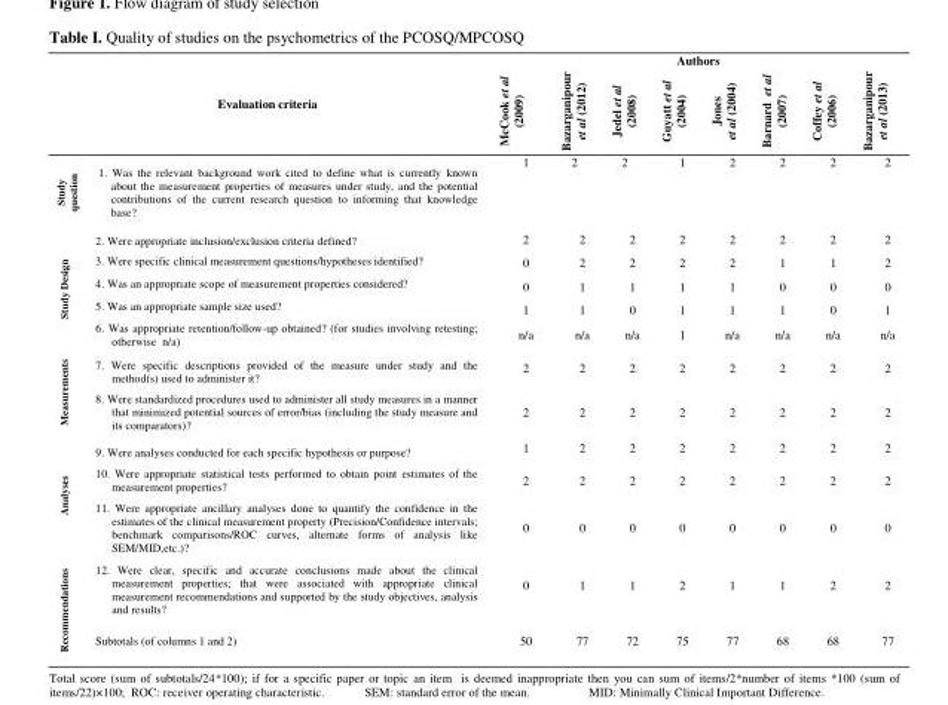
<table><thead><tr><td rowspan="2" colspan="2">Evaluation criteria</td><td colspan="8">Authors</td></tr><tr><td rowspan="2">McCook et al (2009) 1</td><td rowspan="2">Bazarganipour et al (2012) 2</td><td rowspan="2">Jedel et al (2008) 2</td><td rowspan="2">Guyatt et al (2004) 1</td><td rowspan="2">Jones et al (2004) 2</td><td rowspan="2">Barnard et al (2007) 2</td><td rowspan="2">Coffey et al (2006) 2</td><td rowspan="2">Bazarganipour et al (2013) 2</td></tr><tr><td>Study question</td><td>1. Was the relevant background work cited to define what is currently known about the measurement properties of measures under study, and the potential contributions of the current research question to informing that knowledge base?</td></tr></thead><tbody><tr><td rowspan="5">Study Design</td><td>2. Were appropriate inclusion/exclusion criteria defined?</td><td>2</td><td>2</td><td>2</td><td>2</td><td>2</td><td>2</td><td>2</td><td>2</td></tr><tr><td>3. Were specific clinical measurement questions/hypotheses identified?</td><td>0</td><td>2</td><td>2</td><td>2</td><td>2</td><td>1</td><td>1</td><td>2</td></tr><tr><td>4. Was an appropriate scope of measurement properties considered?</td><td>0</td><td>1</td><td>1</td><td>1</td><td>1</td><td>0</td><td>0</td><td>0</td></tr><tr><td>5. Was an appropriate sample size used?</td><td>1</td><td>1</td><td>0</td><td>1</td><td>1</td><td>1</td><td>0</td><td>1</td></tr><tr><td>6. Was appropriate retention/follow-up obtained? (for studies involving retesting; otherwise n/a)</td><td>n/a</td><td>n/a</td><td>n/a</td><td>1</td><td>n/a</td><td>n/a</td><td>n/a</td><td>n/a</td></tr><tr><td rowspan="2">Measurements</td><td>7. Were specific descriptions provided of the measure under study and the method(s) used to administer it?</td><td>2</td><td>2</td><td>2</td><td>2</td><td>2</td><td>2</td><td>2</td><td>2</td></tr><tr><td>8. Were standardized procedures used to administer all study measures in a manner that minimized potential sources of error/bias (including the study measure and its comparators)?</td><td>2</td><td>2</td><td>2</td><td>2</td><td>2</td><td>2</td><td>2</td><td>2</td></tr><tr><td rowspan="3">Analyses</td><td>9. Were analyses conducted for each specific hypothesis or purpose?</td><td>1</td><td>2</td><td>2</td><td>2</td><td>2</td><td>2</td><td>2</td><td>2</td></tr><tr><td>10. Were appropriate statistical tests performed to obtain point estimates of the measurement properties?</td><td>2</td><td>2</td><td>2</td><td>2</td><td>2</td><td>2</td><td>2</td><td>2</td></tr><tr><td>11. Were appropriate ancillary analyses done to quantify the confidence in the estimates of the clinical measurement property (Precision/Confidence intervals; benchmark comparisons/ROC curves, alternate forms of analysis like SEM/MID,etc.)?</td><td>0</td><td>0</td><td>0</td><td>0</td><td>0</td><td>0</td><td>0</td><td>0</td></tr><tr><td rowspan="2">Recommendations</td><td>12. Were clear, specific and accurate conclusions made about the clinical measurement properties; that were associated with appropriate clinical measurement recommendations and supported by the study objectives, analysis and results?</td><td>0</td><td>1</td><td>1</td><td>2</td><td>1</td><td>1</td><td>2</td><td>2</td></tr><tr><td>Subtotals (of columns 1 and 2)</td><td>50</td><td>77</td><td>72</td><td>75</td><td>77</td><td>68</td><td>68</td><td>77</td></tr></tbody></table>